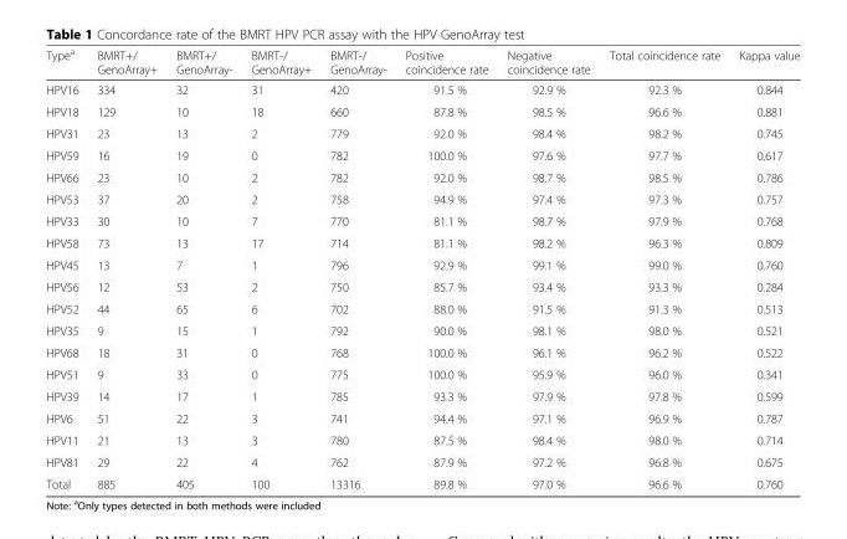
<table><thead><tr><td>Type<sup>a</sup></td><td>BMRT+/ GenoArray+</td><td>BMRT+/ GenoArray-</td><td>BMRT-/ GenoArray+</td><td>BMRT-/ GenoArray-</td><td>Positive coincidence rate</td><td>Negative coincidence rate</td><td>Total coincidence rate</td><td>Kappa value</td></tr></thead><tbody><tr><td>HPV16</td><td>334</td><td>32</td><td>31</td><td>420</td><td>91.5 %</td><td>92.9 %</td><td>92.3 %</td><td>0.844</td></tr><tr><td>HPV18</td><td>129</td><td>10</td><td>18</td><td>660</td><td>87.8 %</td><td>98.5 %</td><td>96.6 %</td><td>0.881</td></tr><tr><td>HPV31</td><td>23</td><td>13</td><td>2</td><td>779</td><td>92.0 %</td><td>98.4 %</td><td>98.2 %</td><td>0.745</td></tr><tr><td>HPV59</td><td>16</td><td>19</td><td>0</td><td>782</td><td>100.0 %</td><td>97.6 %</td><td>97.7 %</td><td>0.617</td></tr><tr><td>HPV66</td><td>23</td><td>10</td><td>2</td><td>782</td><td>92.0 %</td><td>98.7 %</td><td>98.5 %</td><td>0.786</td></tr><tr><td>HPV53</td><td>37</td><td>20</td><td>2</td><td>758</td><td>94.9 %</td><td>97.4 %</td><td>97.3 %</td><td>0.757</td></tr><tr><td>HPV33</td><td>30</td><td>10</td><td>7</td><td>770</td><td>81.1 %</td><td>98.7 %</td><td>97.9 %</td><td>0.768</td></tr><tr><td>HPV58</td><td>73</td><td>13</td><td>17</td><td>714</td><td>81.1 %</td><td>98.2 %</td><td>96.3 %</td><td>0.809</td></tr><tr><td>HPV45</td><td>13</td><td>7</td><td>1</td><td>796</td><td>92.9 %</td><td>99.1 %</td><td>99.0 %</td><td>0.760</td></tr><tr><td>HPV56</td><td>12</td><td>53</td><td>2</td><td>750</td><td>85.7 %</td><td>93.4 %</td><td>93.3 %</td><td>0.284</td></tr><tr><td>HPV52</td><td>44</td><td>65</td><td>6</td><td>702</td><td>88.0 %</td><td>91.5 %</td><td>91.3 %</td><td>0.513</td></tr><tr><td>HPV35</td><td>9</td><td>15</td><td>1</td><td>792</td><td>90.0 %</td><td>98.1 %</td><td>98.0 %</td><td>0.521</td></tr><tr><td>HPV68</td><td>18</td><td>31</td><td>0</td><td>768</td><td>100.0 %</td><td>96.1 %</td><td>96.2 %</td><td>0.522</td></tr><tr><td>HPV51</td><td>9</td><td>33</td><td>0</td><td>775</td><td>100.0 %</td><td>95.9 %</td><td>96.0 %</td><td>0.341</td></tr><tr><td>HPV39</td><td>14</td><td>17</td><td>1</td><td>785</td><td>93.3 %</td><td>97.9 %</td><td>97.8 %</td><td>0.599</td></tr><tr><td>HPV6</td><td>51</td><td>22</td><td>3</td><td>741</td><td>94.4 %</td><td>97.1 %</td><td>96.9 %</td><td>0.787</td></tr><tr><td>HPV11</td><td>21</td><td>13</td><td>3</td><td>780</td><td>87.5 %</td><td>98.4 %</td><td>98.0 %</td><td>0.714</td></tr><tr><td>HPV81</td><td>29</td><td>22</td><td>4</td><td>762</td><td>87.9 %</td><td>97.2 %</td><td>96.8 %</td><td>0.675</td></tr><tr><td>Total</td><td>885</td><td>405</td><td>100</td><td>13316</td><td>89.8 %</td><td>97.0 %</td><td>96.6 %</td><td>0.760</td></tr></tbody></table>